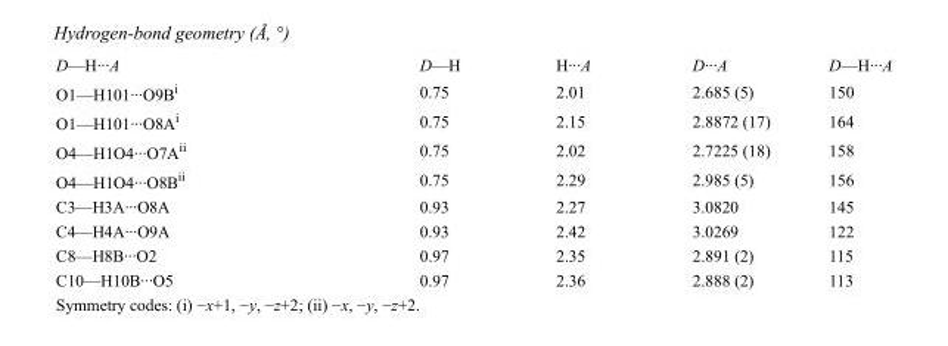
<table><tbody><tr><td>D—H···A</td><td>D—H</td><td>H···A</td><td>D···A</td><td>D—H···A</td></tr><tr><td>O1—H101···O9B<sup>i</sup></td><td>0.75</td><td>2.01</td><td>2.685 (5)</td><td>150</td></tr><tr><td>O1—H101···O8A<sup>i</sup></td><td>0.75</td><td>2.15</td><td>2.8872 (17)</td><td>164</td></tr><tr><td>O4—H1O4···O7A<sup>ii</sup></td><td>0.75</td><td>2.02</td><td>2.7225 (18)</td><td>158</td></tr><tr><td>O4—H1O4···O8B<sup>ii</sup></td><td>0.75</td><td>2.29</td><td>2.985 (5)</td><td>156</td></tr><tr><td>C3—H3A···O8A</td><td>0.93</td><td>2.27</td><td>3.0820</td><td>145</td></tr><tr><td>C4—H4A···O9A</td><td>0.93</td><td>2.42</td><td>3.0269</td><td>122</td></tr><tr><td>C8—H8B···O2</td><td>0.97</td><td>2.35</td><td>2.891 (2)</td><td>115</td></tr><tr><td>C10—H10B···O5</td><td>0.97</td><td>2.36</td><td>2.888 (2)</td><td>113</td></tr></tbody></table>